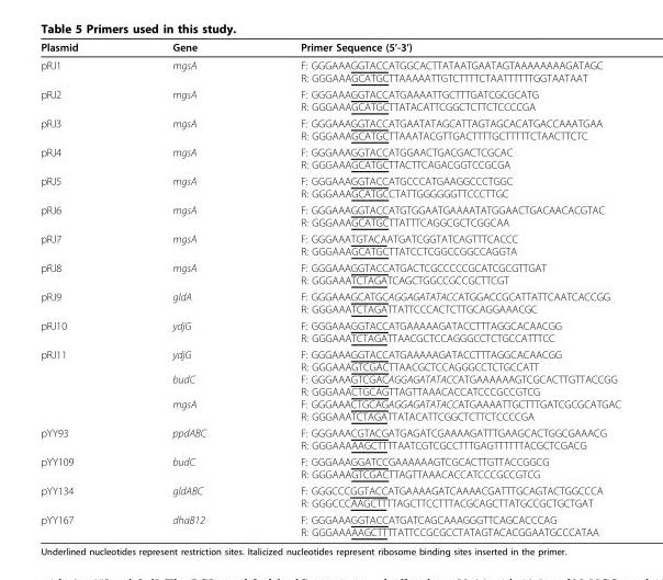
<table><thead><tr><td>Plasmid</td><td>Gene</td><td>Primer Sequence (5’-3’)</td></tr></thead><tbody><tr><td>pRJ1</td><td>mgsA</td><td>F: GGGAAAGGTACCATGGCACTTATAATGAATAGTAAAAAAAAGATAGC R: GGGAAAGCATGCTTAAAAATTGTCTTTTCTAATTTTTTGGTAATAAT</td></tr><tr><td>pRJ2</td><td>mgsA</td><td>F: GGGAAAGGTACCATGAAAATTGCTTTGATCGCGCATG R: GGGAAAGCATGCTTATACATTCGGCTCTTCTCCCCGA</td></tr><tr><td>pRJ3</td><td>mgsA</td><td>F: GGGAAAGGTACCATGAATATAGCATTAGTAGCACATGACCAAATGAA R: GGGAAAGCATGCTTAAATACGTTGACTTTTGCTTTTTCTAACTTCTC</td></tr><tr><td>pRJ4</td><td>mgsA</td><td>F: GGGAAAGGTACCATGGAACTGACGACTCGCAC R: GGGAAAGCATGCTTACTTCAGACGGTCCGCGA</td></tr><tr><td>pRJ5</td><td>mgsA</td><td>F: GGGAAAGGTACCATGCCCATGAAGGCCCTGGC R: GGGAAAGCATGCCTATTGGGGGGTTCCCTTGC</td></tr><tr><td>pRJ6</td><td>mgsA</td><td>F: GGGAAAGGTACCATGTGGAATGAAAATATGGAACTGACAACACGTAC R: GGGAAAGCATGCTTATTTCAGGCGCTCGGCAA</td></tr><tr><td>pRJ7</td><td>mgsA</td><td>F: GGGAAATGTACAATGATCGGTATCAGTTTCACCC R: GGGAAAGCATGCTTATCCTCGGCCGGCCAGGTA</td></tr><tr><td>pRJ8</td><td>mgsA</td><td>F: GGGAAAGGTACCATGACTCGCCCCCGCATCGCGTTGAT R: GGGAAATCTAGATCAGCTGGCCGCCGCTTCGT</td></tr><tr><td>pRJ9</td><td>gldA</td><td>F: GGGAAAGCATGCAGGAGATATACCATGGACCGCATTATTCAATCACCGG R: GGGAAATCTAGATTATTCCCACTCTTGCAGGAAACGC</td></tr><tr><td>pRJ10</td><td>ydjG</td><td>F: GGGAAAGGTACCATGAAAAAGATACCTTTAGGCACAACGG R: GGGAAATCTAGATTAACGCTCCAGGGCCTCTGCCATTTCC</td></tr><tr><td>pRJ11</td><td>ydjG budC mgsA</td><td>F: GGGAAAGGTACCATGAAAAAGATACCTTTAGGCACAACGG R: GGGAAAGTCGACTTAACGCTCCAGGGCCTCTGCCATT F: GGGAAAGTCGACAGGAGATATACCATGAAAAAAGTCGCACTTGTTACCGG R: GGGAAACTGCAGTTAGTTAAACACCATCCCGCCGTCG F: GGGAAACTGCAGAGGAGATATACCATGAAAATTGCTTTGATCGCGCATGAC R: GGGAAATCTAGATTATACATTCGGCTCTTCTCCCCGA</td></tr><tr><td>pYY93</td><td>ppdABC</td><td>F: GGGAAACGTACGATGAGATCGAAAAGATTTGAAGCACTGGCGAAACG R: GGGAAAAAGCTTTTAATCGTCGCCTTTGAGTTTTTTACGCTCGACG</td></tr><tr><td>pYY109</td><td>budC</td><td>F: GGGAAAGGATCCGAAAAAAGTCGCACTTGTTACCGGCG R: GGGAAAGTCGACTTAGTTAAACACCATCCCGCCGTCG</td></tr><tr><td>pYY134</td><td>gldABC</td><td>F: GGGCCCGGTACCATGAAAAGATCAAAACGATTTGCAGTACTGGCCCA R: GGGCCCAAGCTTTTAGCTTCCTTTACGCAGCTTATGCCGCTGCTGAT</td></tr><tr><td>pYY167</td><td>dhaB12</td><td>F: GGGAAAGGTACCATGATCAGCAAAGGGTTCAGCACCCAG R: GGGAAAAAGCTTTTATTCCGCGCCTATAGTACACGGAATGCCCATAA</td></tr></tbody></table>